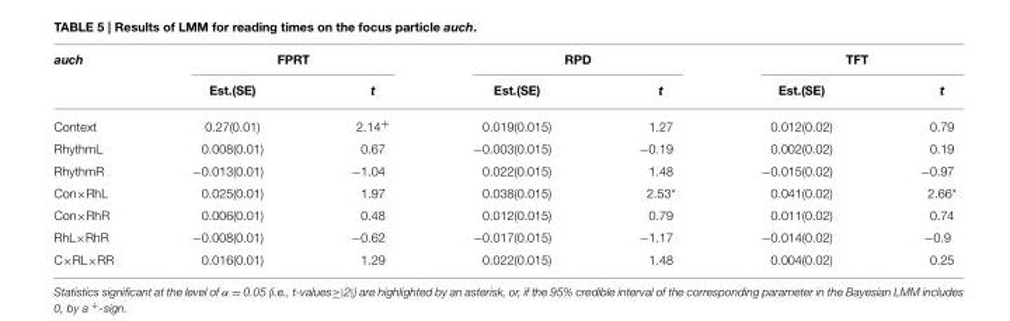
<table><thead><tr><td rowspan="2">auch</td><td colspan="2">FPRT</td><td colspan="2">RPD</td><td colspan="2">TFT</td></tr><tr><td>Est.(SE)</td><td>t</td><td>Est.(SE)</td><td>t</td><td>Est.(SE)</td><td>t</td></tr></thead><tbody><tr><td>Context</td><td>0.27(0.01)</td><td>2.14<sup>+</sup></td><td>0.019(0.015)</td><td>1.27</td><td>0.012(0.02)</td><td>0.79</td></tr><tr><td>RhythmL</td><td>0.008(0.01)</td><td>0.67</td><td>−0.003(0.015)</td><td>−0.19</td><td>0.002(0.02)</td><td>0.19</td></tr><tr><td>RhythmR</td><td>−0.013(0.01)</td><td>−1.04</td><td>0.022(0.015)</td><td>1.48</td><td>−0.015(0.02)</td><td>−0.97</td></tr><tr><td>Con×RhL</td><td>0.025(0.01)</td><td>1.97</td><td>0.038(0.015)</td><td>2.53*</td><td>0.041(0.02)</td><td>2.66*</td></tr><tr><td>Con×RhR</td><td>0.006(0.01)</td><td>0.48</td><td>0.012(0.015)</td><td>0.79</td><td>0.011(0.02)</td><td>0.74</td></tr><tr><td>RhL×RhR</td><td>−0.008(0.01)</td><td>−0.62</td><td>−0.017(0.015)</td><td>−1.17</td><td>−0.014(0.02)</td><td>−0.9</td></tr><tr><td>C×RL×RR</td><td>0.016(0.01)</td><td>1.29</td><td>0.022(0.015)</td><td>1.48</td><td>0.004(0.02)</td><td>0.25</td></tr></tbody></table>